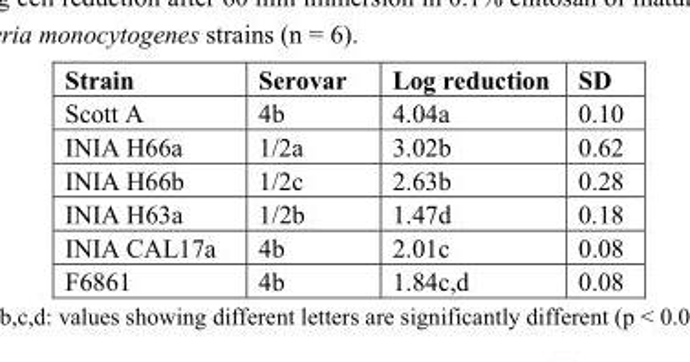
<table><thead><tr><td>Strain</td><td>Serovar</td><td>Log reduction</td><td>SD</td></tr></thead><tbody><tr><td>Scott A</td><td>4<sup>b</sup></td><td>4.04<sup>a</sup></td><td>0.10</td></tr><tr><td>INIA H66<sup>a</sup></td><td>1/2<sup>a</sup></td><td>3.02<sup>b</sup></td><td>0.62</td></tr><tr><td>INIA H66<sup>b</sup></td><td>1/2<sup>c</sup></td><td>2.63<sup>b</sup></td><td>0.28</td></tr><tr><td>INIA H63<sup>a</sup></td><td>1/2<sup>b</sup></td><td>1.47<sup>d</sup></td><td>0.18</td></tr><tr><td>INIA CAL17<sup>a</sup></td><td>4<sup>b</sup></td><td>2.01<sup>c</sup></td><td>0.08</td></tr><tr><td>F6861</td><td>4<sup>b</sup></td><td>1.84<sup>c</sup>,<sup>d</sup></td><td>0.08</td></tr></tbody></table>